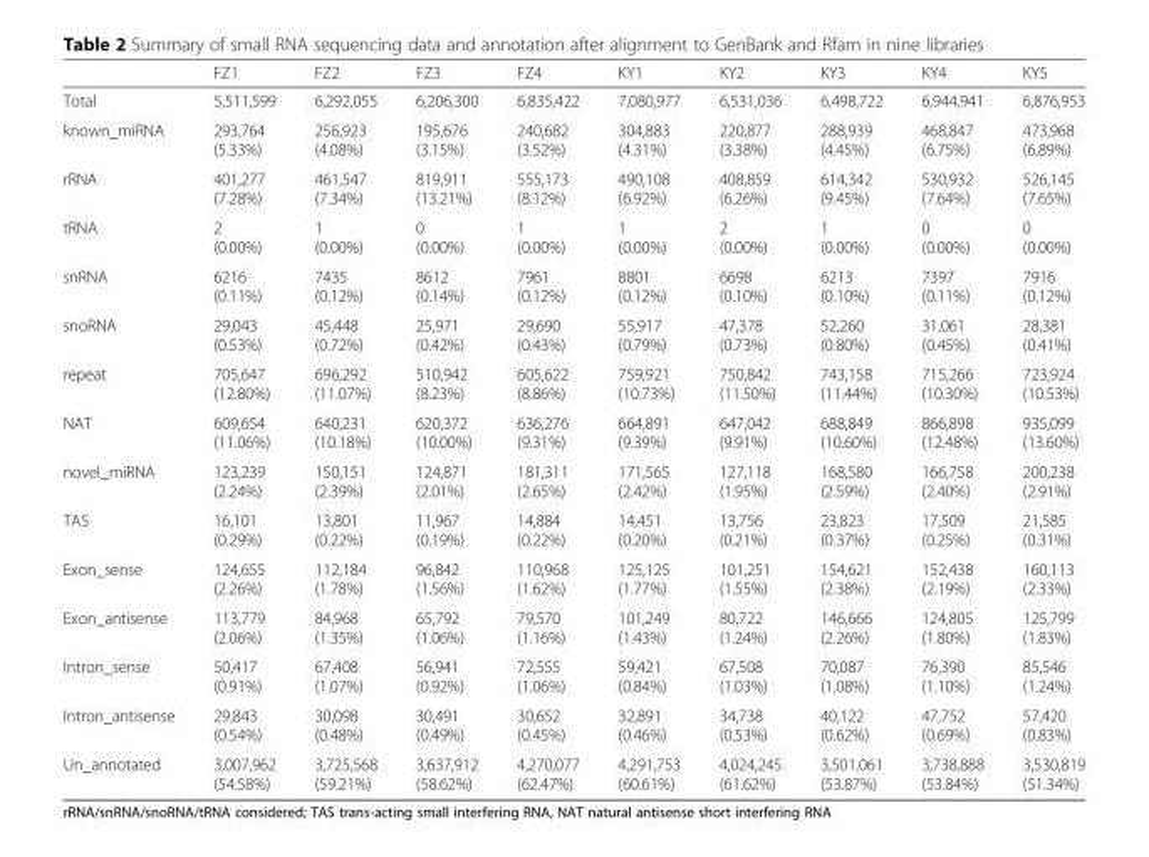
<table><thead><tr><td></td><td>FZ1</td><td>FZ2</td><td>FZ3</td><td>FZ4</td><td>KY1</td><td>KY2</td><td>KY3</td><td>KY4</td><td>KY5</td></tr></thead><tbody><tr><td>Total</td><td>5,511,599</td><td>6,292,055</td><td>6,206,300</td><td>6,835,422</td><td>7,080,977</td><td>6,531,036</td><td>6,498,722</td><td>6,944,941</td><td>6,876,953</td></tr><tr><td>known_miRNA</td><td>293,764 (5.33%)</td><td>256,923 (4.08%)</td><td>195,676 (3.15%)</td><td>240,682 (3.52%)</td><td>304,883 (4.31%)</td><td>220,877 (3.38%)</td><td>288,939 (4.45%)</td><td>468,847 (6.75%)</td><td>473,968 (6.89%)</td></tr><tr><td>rRNA</td><td>401,277 (7.28%)</td><td>461,547 (7.34%)</td><td>819,911 (13.21%)</td><td>555,173 (8.12%)</td><td>490,108 (6.92%)</td><td>408,859 (6.26%)</td><td>614,342 (9.45%)</td><td>530,932 (7.64%)</td><td>526,145 (7.65%)</td></tr><tr><td>tRNA</td><td>2 (0.00%)</td><td>1 (0.00%)</td><td>0 (0.00%)</td><td>1 (0.00%)</td><td>1 (0.00%)</td><td>2 (0.00%)</td><td>1 (0.00%)</td><td>0 (0.00%)</td><td>0 (0.00%)</td></tr><tr><td>snRNA</td><td>6216 (0.11%)</td><td>7435 (0.12%)</td><td>8612 (0.14%)</td><td>7961 (0.12%)</td><td>8801 (0.12%)</td><td>6698 (0.10%)</td><td>6213 (0.10%)</td><td>7397 (0.11%)</td><td>7916 (0.12%)</td></tr><tr><td>snoRNA</td><td>29,043 (0.53%)</td><td>45,448 (0.72%)</td><td>25,971 (0.42%)</td><td>29,690 (0.43%)</td><td>55,917 (0.79%)</td><td>47,378 (0.73%)</td><td>52,260 (0.80%)</td><td>31,061 (0.45%)</td><td>28,381 (0.41%)</td></tr><tr><td>repeat</td><td>705,647 (12.80%)</td><td>696,292 (11.07%)</td><td>510,942 (8.23%)</td><td>605,622 (8.86%)</td><td>759,921 (10.73%)</td><td>750,842 (11.50%)</td><td>743,158 (11.44%)</td><td>715,266 (10.30%)</td><td>723,924 (10.53%)</td></tr><tr><td>NAT</td><td>609,654 (11.06%)</td><td>640,231 (10.18%)</td><td>620,372 (10.00%)</td><td>636,276 (9.31%)</td><td>664,891 (9.39%)</td><td>647,042 (9.91%)</td><td>688,849 (10.60%)</td><td>866,898 (12.48%)</td><td>935,099 (13.60%)</td></tr><tr><td>novel_miRNA</td><td>123,239 (2.24%)</td><td>150,151 (2.39%)</td><td>124,871 (2.01%)</td><td>181,311 (2.65%)</td><td>171,565 (2.42%)</td><td>127,118 (1.95%)</td><td>168,580 (2.59%)</td><td>166,758 (2.40%)</td><td>200,238 (2.91%)</td></tr><tr><td>TAS</td><td>16,101 (0.29%)</td><td>13,801 (0.22%)</td><td>11,967 (0.19%)</td><td>14,884 (0.22%)</td><td>14,451 (0.20%)</td><td>13,756 (0.21%)</td><td>23,823 (0.37%)</td><td>17,509 (0.25%)</td><td>21,585 (0.31%)</td></tr><tr><td>Exon_sense</td><td>124,655 (2.26%)</td><td>112,184 (1.78%)</td><td>96,842 (1.56%)</td><td>110,968 (1.62%)</td><td>125,125 (1.77%)</td><td>101,251 (1.55%)</td><td>154,621 (2.38%)</td><td>152,438 (2.19%)</td><td>160,113 (2.33%)</td></tr><tr><td>Exon_antisense</td><td>113,779 (2.06%)</td><td>84,968 (1.35%)</td><td>65,792 (1.06%)</td><td>79,570 (1.16%)</td><td>101,249 (1.43%)</td><td>80,722 (1.24%)</td><td>146,666 (2.26%)</td><td>124,805 (1.80%)</td><td>125,799 (1.83%)</td></tr><tr><td>Intron_sense</td><td>50,417 (0.91%)</td><td>67,408 (1.07%)</td><td>56,941 (0.92%)</td><td>72,555 (1.06%)</td><td>59,421 (0.84%)</td><td>67,508 (1.03%)</td><td>70,087 (1.08%)</td><td>76,390 (1.10%)</td><td>85,546 (1.24%)</td></tr><tr><td>Intron_antisense</td><td>29,843 (0.54%)</td><td>30,098 (0.48%)</td><td>30,491 (0.49%)</td><td>30,652 (0.45%)</td><td>32,891 (0.46%)</td><td>34,738 (0.53%)</td><td>40,122 (0.62%)</td><td>47,752 (0.69%)</td><td>57,420 (0.83%)</td></tr><tr><td>Un_annotated</td><td>3,007,962 (54.58%)</td><td>3,725,568 (59.21%)</td><td>3,637,912 (58.62%)</td><td>4,270,077 (62.47%)</td><td>4,291,753 (60.61%)</td><td>4,024,245 (61.62%)</td><td>3,501,061 (53.87%)</td><td>3,738,888 (53.84%)</td><td>3,530,819 (51.34%)</td></tr></tbody></table>